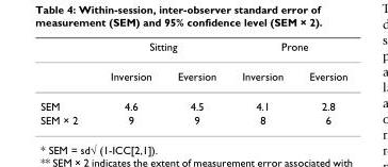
<table><thead><tr><td rowspan="2"></td><td colspan="2">Sitting</td><td colspan="2">Prone</td></tr><tr><td>Inversion</td><td>Eversion</td><td>Inversion</td><td>Eversion</td></tr></thead><tbody><tr><td>SEM</td><td>4.6</td><td>4.5</td><td>4.1</td><td>2.8</td></tr><tr><td>SEM × 2</td><td>9</td><td>9</td><td>8</td><td>6</td></tr></tbody></table>